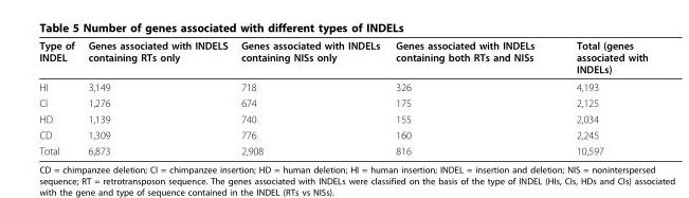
<table><thead><tr><td>Type of INDEL</td><td>Genes associated with INDELS containing RTs only</td><td>Genes associated with INDELs containing NISs only</td><td>Genes associated with INDELs containing both RTs and NISs</td><td>Total (genes associated with INDELs)</td></tr></thead><tbody><tr><td>HI</td><td>3,149</td><td>718</td><td>326</td><td>4,193</td></tr><tr><td>CI</td><td>1,276</td><td>674</td><td>175</td><td>2,125</td></tr><tr><td>HD</td><td>1,139</td><td>740</td><td>155</td><td>2,034</td></tr><tr><td>CD</td><td>1,309</td><td>776</td><td>160</td><td>2,245</td></tr><tr><td>Total</td><td>6,873</td><td>2,908</td><td>816</td><td>10,597</td></tr></tbody></table>